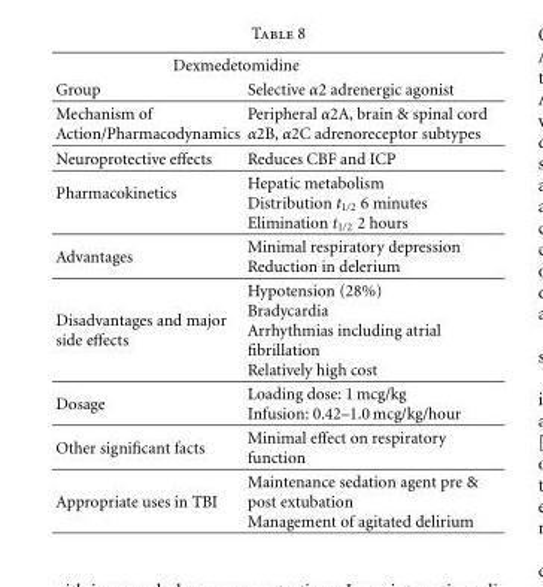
<table><thead><tr><td colspan="2">Dexmedetomidine</td></tr><tr><td>Group</td><td>Selective α2 adrenergic agonist</td></tr></thead><tbody><tr><td>Mechanism of Action/Pharmacodynamics</td><td>Peripheral α2A, brain &amp; spinal cord α2B, α2C adrenoreceptor subtypes</td></tr><tr><td>Neuroprotective effects</td><td>Reduces CBF and ICP</td></tr><tr><td>Pharmacokinetics</td><td>Hepatic metabolism Distribution t<sub>1/2</sub> 6 minutes Elimination t<sub>1/2</sub> 2 hours</td></tr><tr><td>Advantages</td><td>Minimal respiratory depression Reduction in delerium</td></tr><tr><td>Disadvantages and major side effects</td><td>Hypotension (28%) Bradycardia Arrhythmias including atrial fibrillation Relatively high cost</td></tr><tr><td>Dosage</td><td>Loading dose: 1 mcg/kg Infusion: 0.42–1.0 mcg/kg/hour</td></tr><tr><td>Other significant facts</td><td>Minimal effect on respiratory function</td></tr><tr><td>Appropriate uses in TBI</td><td>Maintenance sedation agent pre &amp; post extubation Management of agitated delirium</td></tr></tbody></table>